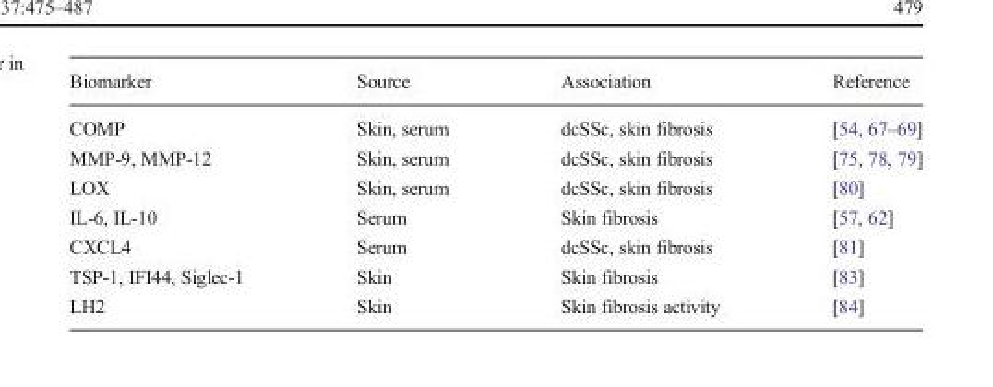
<table><thead><tr><td>Biomarker</td><td>Source</td><td>Association</td><td>Reference</td></tr></thead><tbody><tr><td>COMP</td><td>Skin, serum</td><td>dcSSc, skin fibrosis</td><td>[54, 67–69]</td></tr><tr><td>MMP-9, MMP-12</td><td>Skin, serum</td><td>dcSSc, skin fibrosis</td><td>[75, 78, 79]</td></tr><tr><td>LOX</td><td>Skin, serum</td><td>dcSSc, skin fibrosis</td><td>[80]</td></tr><tr><td>IL-6, IL-10</td><td>Serum</td><td>Skin fibrosis</td><td>[57, 62]</td></tr><tr><td>CXCL4</td><td>Serum</td><td>dcSSc, skin fibrosis</td><td>[81]</td></tr><tr><td>TSP-1, IFI44, Siglec-1</td><td>Skin</td><td>Skin fibrosis</td><td>[83]</td></tr><tr><td>LH2</td><td>Skin</td><td>Skin fibrosis activity</td><td>[84]</td></tr></tbody></table>